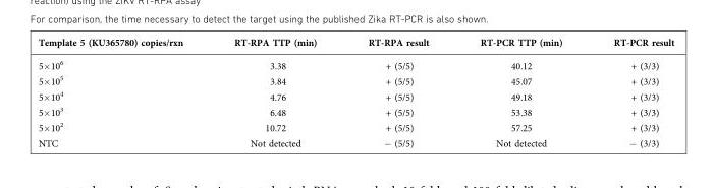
<table><thead><tr><td>Template 5 (KU365780) copies/rxn</td><td>RT-RPA TTP (min)</td><td>RT-RPA result</td><td>RT-PCR TTP (min)</td><td>RT-PCR result</td></tr></thead><tbody><tr><td>5×10<sup>6</sup></td><td>3.38</td><td>+ (5/5)</td><td>40.12</td><td>+ (3/3)</td></tr><tr><td>5×10<sup>5</sup></td><td>3.84</td><td>+ (5/5)</td><td>45.07</td><td>+ (3/3)</td></tr><tr><td>5×10<sup>4</sup></td><td>4.76</td><td>+ (5/5)</td><td>49.18</td><td>+ (3/3)</td></tr><tr><td>5×10<sup>3</sup></td><td>6.48</td><td>+ (5/5)</td><td>53.38</td><td>+ (3/3)</td></tr><tr><td>5×10<sup>2</sup></td><td>10.72</td><td>+ (5/5)</td><td>57.25</td><td>+ (3/3)</td></tr><tr><td>NTC</td><td>Not detected</td><td>− (5/5)</td><td>Not detected</td><td>− (3/3)</td></tr></tbody></table>